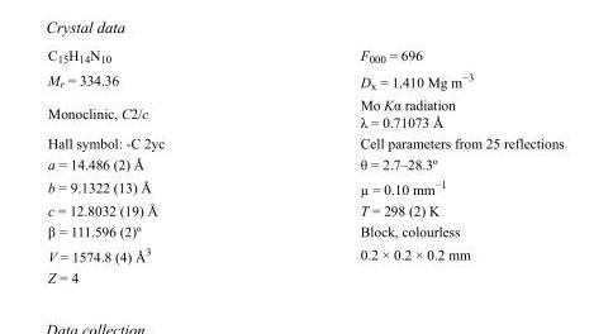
<table><tbody><tr><td>C<sub>15</sub>H<sub>14</sub>N<sub>10</sub></td><td>F<sub>000</sub> = 696</td></tr><tr><td>M<sub>r</sub> = 334.36</td><td>D<sub>x</sub> = 1.410 Mg m<sup>−3</sup></td></tr><tr><td>Monoclinic, C2/c</td><td>Mo Kα radiation λ = 0.71073 Å</td></tr><tr><td>Hall symbol: -C 2yc</td><td>Cell parameters from 25 reflections</td></tr><tr><td>a = 14.486 (2) Å</td><td>θ = 2.7–28.3º</td></tr><tr><td>b = 9.1322 (13) Å</td><td>µ = 0.10 mm<sup>−1</sup></td></tr><tr><td>c = 12.8032 (19) Å</td><td>T = 298 (2) K</td></tr><tr><td>β = 111.596 (2)º</td><td>Block, colourless</td></tr><tr><td>V = 1574.8 (4) Å<sup>3</sup></td><td>0.2 × 0.2 × 0.2 mm</td></tr><tr><td>Z = 4</td><td></td></tr></tbody></table>